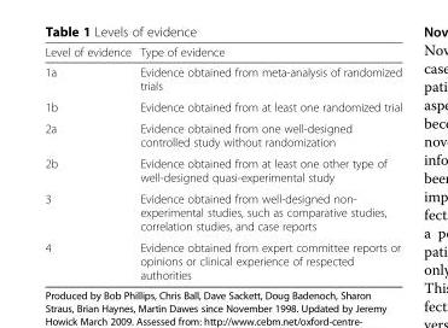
<table><thead><tr><td>Level of evidence</td><td>Type of evidence</td></tr></thead><tbody><tr><td>1a</td><td>Evidence obtained from meta-analysis of randomized trials</td></tr><tr><td>1b</td><td>Evidence obtained from at least one randomized trial</td></tr><tr><td>2a</td><td>Evidence obtained from one well-designed controlled study without randomization</td></tr><tr><td>2b</td><td>Evidence obtained from at least one other type of well-designed quasi-experimental study</td></tr><tr><td>3</td><td>Evidence obtained from well-designed non- experimental studies, such as comparative studies, correlation studies, and case reports</td></tr><tr><td>4</td><td>Evidence obtained from expert committee reports or opinions or clinical experience of respected authorities</td></tr></tbody></table>